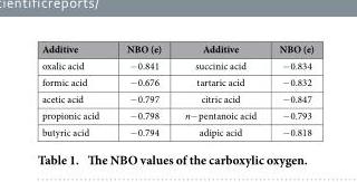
<table><thead><tr><td>Additive</td><td>NBO (e)</td><td>Additive</td><td>NBO (e)</td></tr></thead><tbody><tr><td>oxalic acid</td><td>− 0.841</td><td>succinic acid</td><td>− 0.834</td></tr><tr><td>formic acid</td><td>− 0.676</td><td>tartaric acid</td><td>− 0.832</td></tr><tr><td>acetic acid</td><td>− 0.797</td><td>citric acid</td><td>− 0.847</td></tr><tr><td>propionic acid</td><td>− 0.798</td><td>n− pentanoic acid</td><td>− 0.793</td></tr><tr><td>butyric acid</td><td>− 0.794</td><td>adipic acid</td><td>− 0.818</td></tr></tbody></table>